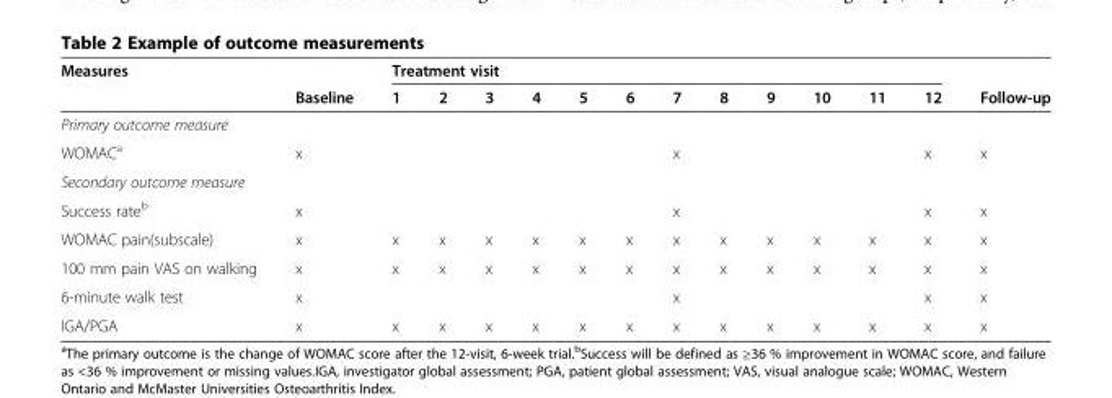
<table><thead><tr><td rowspan="2">Measures</td><td rowspan="2">Baseline</td><td colspan="12">Treatment visit</td><td rowspan="2">Follow-up</td></tr><tr><td>1</td><td>2</td><td>3</td><td>4</td><td>5</td><td>6</td><td>7</td><td>8</td><td>9</td><td>10</td><td>11</td><td>12</td></tr></thead><tbody><tr><td colspan="15">Primary outcome measure</td></tr><tr><td>WOMAC<sup>a</sup></td><td>x</td><td></td><td></td><td></td><td></td><td></td><td></td><td>x</td><td></td><td></td><td></td><td></td><td>x</td><td>x</td></tr><tr><td colspan="15">Secondary outcome measure</td></tr><tr><td>Success rate<sup>b</sup></td><td>x</td><td></td><td></td><td></td><td></td><td></td><td></td><td>x</td><td></td><td></td><td></td><td></td><td>x</td><td>x</td></tr><tr><td>WOMAC pain(subscale)</td><td>x</td><td>x</td><td>x</td><td>x</td><td>x</td><td>x</td><td>x</td><td>x</td><td>x</td><td>x</td><td>x</td><td>x</td><td>x</td><td>x</td></tr><tr><td>100 mm pain VAS on walking</td><td>x</td><td>x</td><td>x</td><td>x</td><td>x</td><td>x</td><td>x</td><td>x</td><td>x</td><td>x</td><td>x</td><td>x</td><td>x</td><td>x</td></tr><tr><td>6-minute walk test</td><td>x</td><td></td><td></td><td></td><td></td><td></td><td></td><td>x</td><td></td><td></td><td></td><td></td><td>x</td><td>x</td></tr><tr><td>IGA/PGA</td><td>x</td><td>x</td><td>x</td><td>x</td><td>x</td><td>x</td><td>x</td><td>x</td><td>x</td><td>x</td><td>x</td><td>x</td><td>x</td><td>x</td></tr></tbody></table>